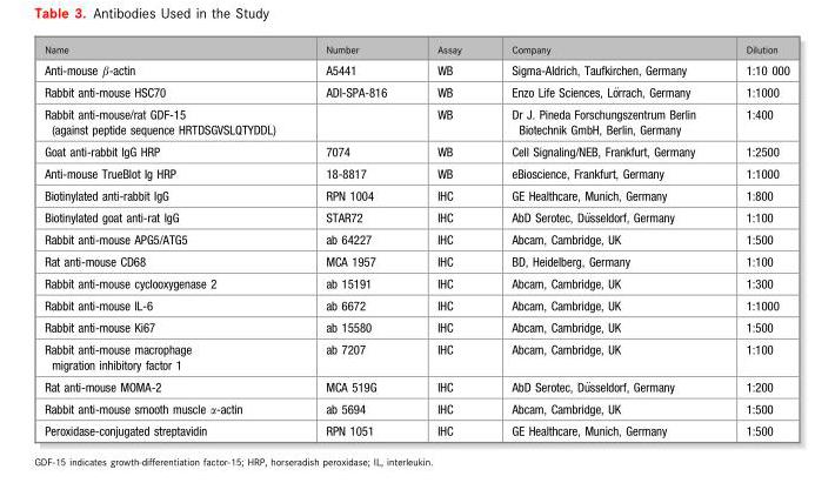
<table><thead><tr><td>Name</td><td>Number</td><td>Assay</td><td>Company</td><td>Dilution</td></tr></thead><tbody><tr><td>Anti-mouse β-actin</td><td>A5441</td><td>WB</td><td>Sigma-Aldrich, Taufkirchen, Germany</td><td>1:10 000</td></tr><tr><td>Rabbit anti-mouse HSC70</td><td>ADI-SPA-816</td><td>WB</td><td>Enzo Life Sciences, L€orrach, Germany</td><td>1:1000</td></tr><tr><td>Rabbit anti-mouse/rat GDF-15 (against peptide sequence HRTDSGVSLQTYDDL)</td><td></td><td>WB</td><td>Dr J. Pineda Forschungszentrum Berlin Biotechnik GmbH, Berlin, Germany</td><td>1:400</td></tr><tr><td>Goat anti-rabbit IgG HRP</td><td>7074</td><td>WB</td><td>Cell Signaling/NEB, Frankfurt, Germany</td><td>1:2500</td></tr><tr><td>Anti-mouse TrueBlot Ig HRP</td><td>18-8817</td><td>WB</td><td>eBioscience, Frankfurt, Germany</td><td>1:1000</td></tr><tr><td>Biotinylated anti-rabbit IgG</td><td>RPN 1004</td><td>IHC</td><td>GE Healthcare, Munich, Germany</td><td>1:800</td></tr><tr><td>Biotinylated goat anti-rat IgG</td><td>STAR72</td><td>IHC</td><td>AbD Serotec, D€usseldorf, Germany</td><td>1:100</td></tr><tr><td>Rabbit anti-mouse APG5/ATG5</td><td>ab 64227</td><td>IHC</td><td>Abcam, Cambridge, UK</td><td>1:500</td></tr><tr><td>Rat anti-mouse CD68</td><td>MCA 1957</td><td>IHC</td><td>BD, Heidelberg, Germany</td><td>1:100</td></tr><tr><td>Rabbit anti-mouse cyclooxygenase 2</td><td>ab 15191</td><td>IHC</td><td>Abcam, Cambridge, UK</td><td>1:300</td></tr><tr><td>Rabbit anti-mouse IL-6</td><td>ab 6672</td><td>IHC</td><td>Abcam, Cambridge, UK</td><td>1:1000</td></tr><tr><td>Rabbit anti-mouse Ki67</td><td>ab 15580</td><td>IHC</td><td>Abcam, Cambridge, UK</td><td>1:500</td></tr><tr><td>Rabbit anti-mouse macrophage migration inhibitory factor 1</td><td>ab 7207</td><td>IHC</td><td>Abcam, Cambridge, UK</td><td>1:100</td></tr><tr><td>Rat anti-mouse MOMA-2</td><td>MCA 519G</td><td>IHC</td><td>AbD Serotec, D€usseldorf, Germany</td><td>1:200</td></tr><tr><td>Rabbit anti-mouse smooth muscle α-actin</td><td>ab 5694</td><td>IHC</td><td>Abcam, Cambridge, UK</td><td>1:500</td></tr><tr><td>Peroxidase-conjugated streptavidin</td><td>RPN 1051</td><td>IHC</td><td>GE Healthcare, Munich, Germany</td><td>1:500</td></tr></tbody></table>